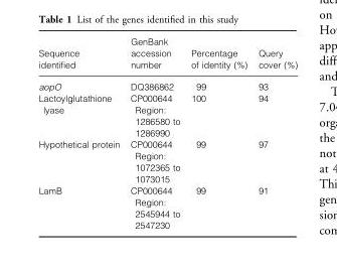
<table><thead><tr><td>Sequence identified</td><td>GenBank accession number</td><td>Percentage of identity (%)</td><td>Query cover (%)</td></tr></thead><tbody><tr><td>aopO</td><td>DQ386862</td><td>99</td><td>93</td></tr><tr><td>Lactoylglutathione lyase</td><td>CP000644 Region: 1286580 to 1286990</td><td>100</td><td>94</td></tr><tr><td>Hypothetical protein</td><td>CP000644 Region: 1072365 to 1073015</td><td>99</td><td>97</td></tr><tr><td>LamB</td><td>CP000644 Region: 2545944 to 2547230</td><td>99</td><td>91</td></tr></tbody></table>